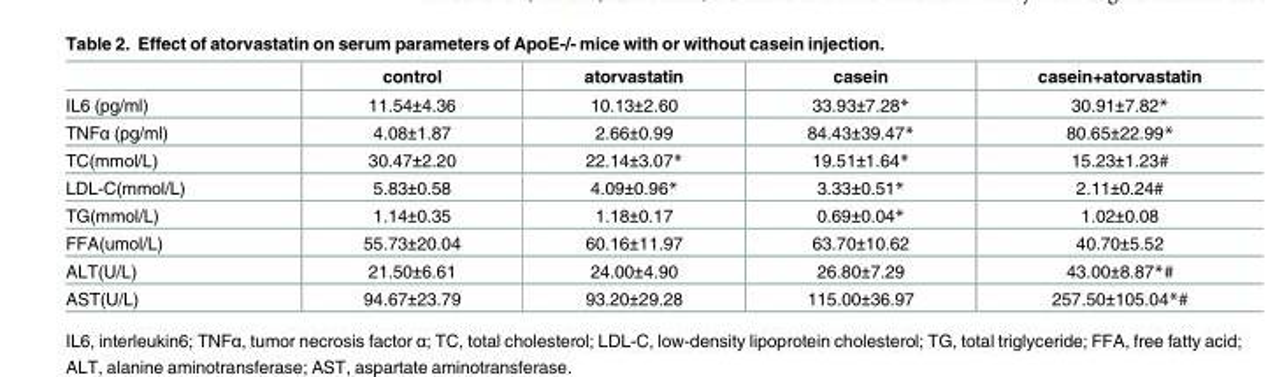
<table><thead><tr><td></td><td>control</td><td>atorvastatin</td><td>casein</td><td>casein+atorvastatin</td></tr></thead><tbody><tr><td>IL6 (pg/ml)</td><td>11.54±4.36</td><td>10.13±2.60</td><td>33.93±7.28*</td><td>30.91±7.82*</td></tr><tr><td>TNFα (pg/ml)</td><td>4.08±1.87</td><td>2.66±0.99</td><td>84.43±39.47*</td><td>80.65±22.99*</td></tr><tr><td>TC(mmol/L)</td><td>30.47±2.20</td><td>22.14±3.07*</td><td>19.51±1.64*</td><td>15.23±1.23#</td></tr><tr><td>LDL-C(mmol/L)</td><td>5.83±0.58</td><td>4.09±0.96*</td><td>3.33±0.51*</td><td>2.11±0.24#</td></tr><tr><td>TG(mmol/L)</td><td>1.14±0.35</td><td>1.18±0.17</td><td>0.69±0.04*</td><td>1.02±0.08</td></tr><tr><td>FFA(umol/L)</td><td>55.73±20.04</td><td>60.16±11.97</td><td>63.70±10.62</td><td>40.70±5.52</td></tr><tr><td>ALT(U/L)</td><td>21.50±6.61</td><td>24.00±4.90</td><td>26.80±7.29</td><td>43.00±8.87*#</td></tr><tr><td>AST(U/L)</td><td>94.67±23.79</td><td>93.20±29.28</td><td>115.00±36.97</td><td>257.50±105.04*#</td></tr></tbody></table>